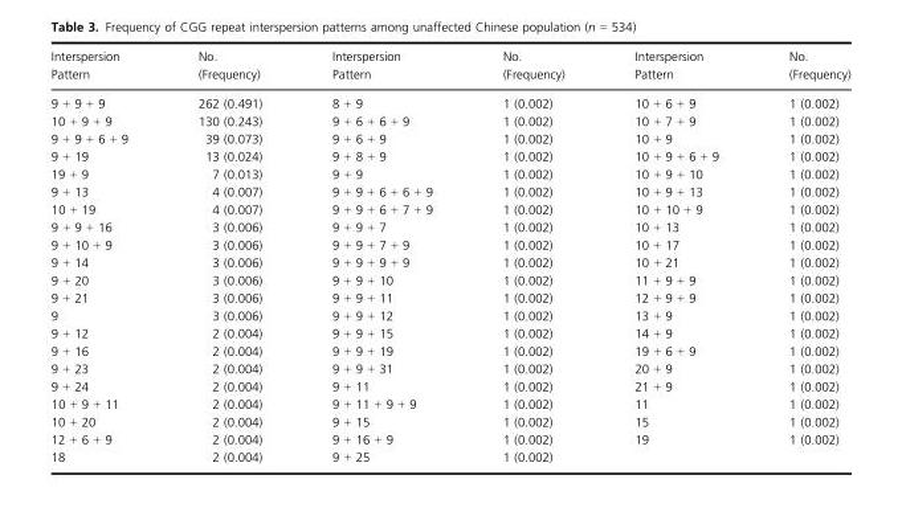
<table><thead><tr><td rowspan="2">Interspersion Pattern</td><td rowspan="2">No. (Frequency)</td><td rowspan="2">Interspersion Pattern</td><td rowspan="2">No. (Frequency)</td><td rowspan="2">Interspersion Pattern</td><td rowspan="2">No. (Frequency)</td></tr><tr></tr></thead><tbody><tr><td>9 + 9 + 9</td><td>262 (0.491)</td><td>8 + 9</td><td>1 (0.002)</td><td>10 + 6 + 9</td><td>1 (0.002)</td></tr><tr><td>10 + 9 + 9</td><td>130 (0.243)</td><td>9 + 6 + 6 + 9</td><td>1 (0.002)</td><td>10 + 7 + 9</td><td>1 (0.002)</td></tr><tr><td>9 + 9 + 6 + 9</td><td>39 (0.073)</td><td>9 + 6 + 9</td><td>1 (0.002)</td><td>10 + 9</td><td>1 (0.002)</td></tr><tr><td>9 + 19</td><td>13 (0.024)</td><td>9 + 8 + 9</td><td>1 (0.002)</td><td>10 + 9 + 6 + 9</td><td>1 (0.002)</td></tr><tr><td>19 + 9</td><td>7 (0.013)</td><td>9 + 9</td><td>1 (0.002)</td><td>10 + 9 + 10</td><td>1 (0.002)</td></tr><tr><td>9 + 13</td><td>4 (0.007)</td><td>9 + 9 + 6 + 6 + 9</td><td>1 (0.002)</td><td>10 + 9 + 13</td><td>1 (0.002)</td></tr><tr><td>10 + 19</td><td>4 (0.007)</td><td>9 + 9 + 6 + 7 + 9</td><td>1 (0.002)</td><td>10 + 10 + 9</td><td>1 (0.002)</td></tr><tr><td>9 + 9 + 16</td><td>3 (0.006)</td><td>9 + 9 + 7</td><td>1 (0.002)</td><td>10 + 13</td><td>1 (0.002)</td></tr><tr><td>9 + 10 + 9</td><td>3 (0.006)</td><td>9 + 9 + 7 + 9</td><td>1 (0.002)</td><td>10 + 17</td><td>1 (0.002)</td></tr><tr><td>9 + 14</td><td>3 (0.006)</td><td>9 + 9 + 9 + 9</td><td>1 (0.002)</td><td>10 + 21</td><td>1 (0.002)</td></tr><tr><td>9 + 20</td><td>3 (0.006)</td><td>9 + 9 + 10</td><td>1 (0.002)</td><td>11 + 9 + 9</td><td>1 (0.002)</td></tr><tr><td>9 + 21</td><td>3 (0.006)</td><td>9 + 9 + 11</td><td>1 (0.002)</td><td>12 + 9 + 9</td><td>1 (0.002)</td></tr><tr><td>9</td><td>3 (0.006)</td><td>9 + 9 + 12</td><td>1 (0.002)</td><td>13 + 9</td><td>1 (0.002)</td></tr><tr><td>9 + 12</td><td>2 (0.004)</td><td>9 + 9 + 15</td><td>1 (0.002)</td><td>14 + 9</td><td>1 (0.002)</td></tr><tr><td>9 + 16</td><td>2 (0.004)</td><td>9 + 9 + 19</td><td>1 (0.002)</td><td>19 + 6 + 9</td><td>1 (0.002)</td></tr><tr><td>9 + 23</td><td>2 (0.004)</td><td>9 + 9 + 31</td><td>1 (0.002)</td><td>20 + 9</td><td>1 (0.002)</td></tr><tr><td>9 + 24</td><td>2 (0.004)</td><td>9 + 11</td><td>1 (0.002)</td><td>21 + 9</td><td>1 (0.002)</td></tr><tr><td>10 + 9 + 11</td><td>2 (0.004)</td><td>9 + 11 + 9 + 9</td><td>1 (0.002)</td><td>11</td><td>1 (0.002)</td></tr><tr><td>10 + 20</td><td>2 (0.004)</td><td>9 + 15</td><td>1 (0.002)</td><td>15</td><td>1 (0.002)</td></tr><tr><td>12 + 6 + 9</td><td>2 (0.004)</td><td>9 + 16 + 9</td><td>1 (0.002)</td><td>19</td><td>1 (0.002)</td></tr><tr><td>18</td><td>2 (0.004)</td><td>9 + 25</td><td>1 (0.002)</td><td></td><td></td></tr></tbody></table>